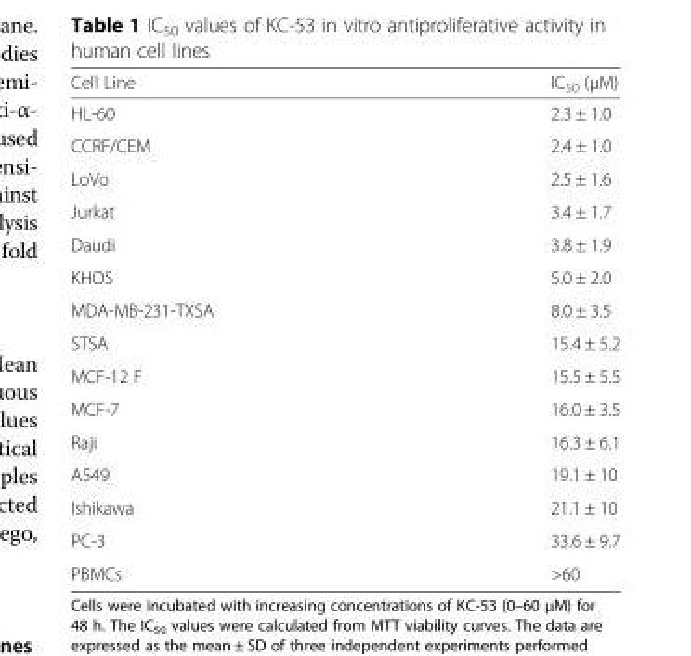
<table><thead><tr><td>Cell Line</td><td>IC<sub>50</sub> (μΜ)</td></tr></thead><tbody><tr><td>HL-60</td><td>2.3 ± 1.0</td></tr><tr><td>CCRF/CEM</td><td>2.4 ± 1.0</td></tr><tr><td>LoVo</td><td>2.5 ± 1.6</td></tr><tr><td>Jurkat</td><td>3.4 ± 1.7</td></tr><tr><td>Daudi</td><td>3.8 ± 1.9</td></tr><tr><td>KHOS</td><td>5.0 ± 2.0</td></tr><tr><td>MDA-MB-231-TXSA</td><td>8.0 ± 3.5</td></tr><tr><td>STSA</td><td>15.4 ± 5.2</td></tr><tr><td>MCF-12 F</td><td>15.5 ± 5.5</td></tr><tr><td>MCF-7</td><td>16.0 ± 3.5</td></tr><tr><td>Raji</td><td>16.3 ± 6.1</td></tr><tr><td>A549</td><td>19.1 ± 10</td></tr><tr><td>Ishikawa</td><td>21.1 ± 10</td></tr><tr><td>PC-3</td><td>33.6 ± 9.7</td></tr><tr><td>PBMCs</td><td>&gt;60</td></tr></tbody></table>